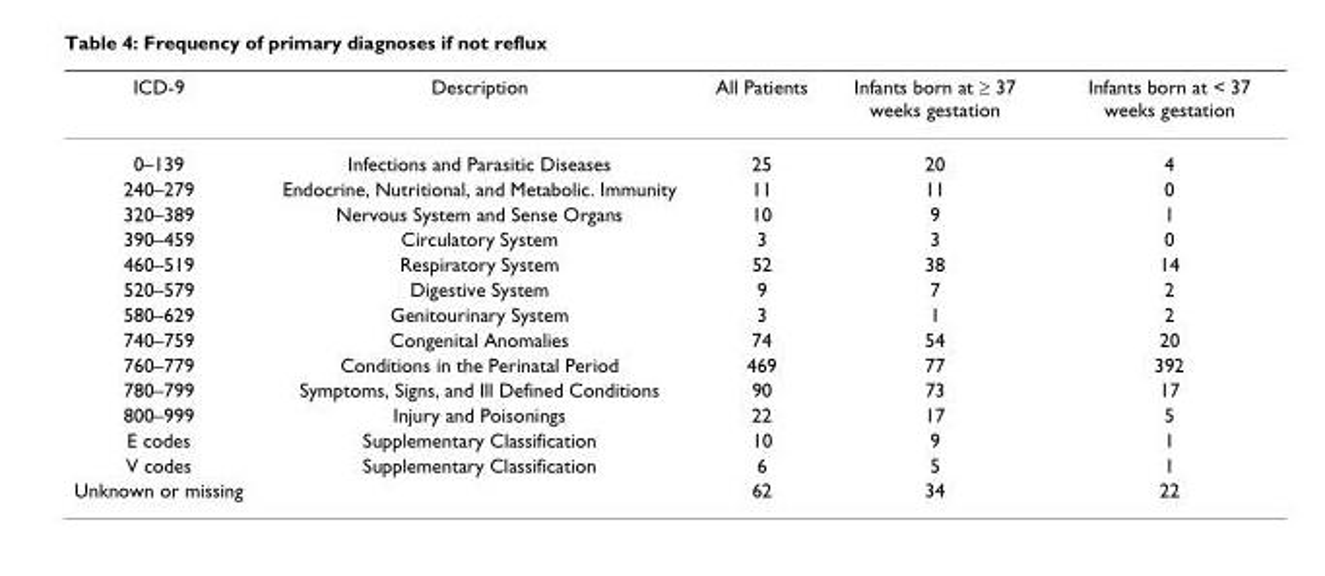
<table><thead><tr><td>ICD-9</td><td>Description</td><td>All Patients</td><td>Infants born at ≥ 37 weeks gestation</td><td>Infants born at &lt; 37 weeks gestation</td></tr></thead><tbody><tr><td>0–139</td><td>Infections and Parasitic Diseases</td><td>25</td><td>20</td><td>4</td></tr><tr><td>240–279</td><td>Endocrine, Nutritional, and Metabolic. Immunity</td><td>11</td><td>11</td><td>0</td></tr><tr><td>320–389</td><td>Nervous System and Sense Organs</td><td>10</td><td>9</td><td>1</td></tr><tr><td>390–459</td><td>Circulatory System</td><td>3</td><td>3</td><td>0</td></tr><tr><td>460–519</td><td>Respiratory System</td><td>52</td><td>38</td><td>14</td></tr><tr><td>520–579</td><td>Digestive System</td><td>9</td><td>7</td><td>2</td></tr><tr><td>580–629</td><td>Genitourinary System</td><td>3</td><td>1</td><td>2</td></tr><tr><td>740–759</td><td>Congenital Anomalies</td><td>74</td><td>54</td><td>20</td></tr><tr><td>760–779</td><td>Conditions in the Perinatal Period</td><td>469</td><td>77</td><td>392</td></tr><tr><td>780–799</td><td>Symptoms, Signs, and Ill Defined Conditions</td><td>90</td><td>73</td><td>17</td></tr><tr><td>800–999</td><td>Injury and Poisonings</td><td>22</td><td>17</td><td>5</td></tr><tr><td>E codes</td><td>Supplementary Classification</td><td>10</td><td>9</td><td>1</td></tr><tr><td>V codes</td><td>Supplementary Classification</td><td>6</td><td>5</td><td>1</td></tr><tr><td>Unknown or missing</td><td></td><td>62</td><td>34</td><td>22</td></tr></tbody></table>